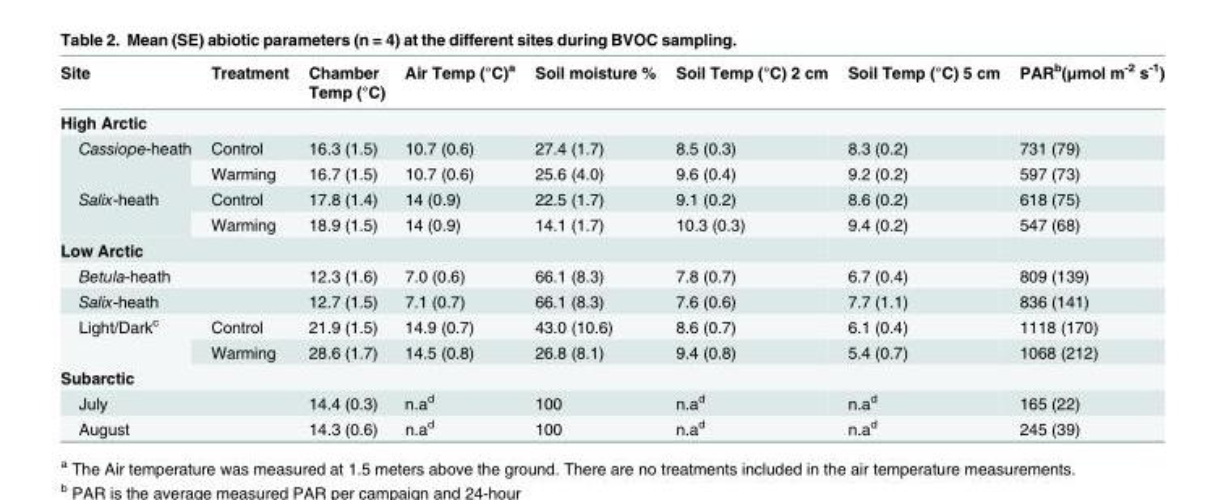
<table><thead><tr><td>Site</td><td>Treatment</td><td>Chamber Temp (°C)</td><td>Air Temp (°C)<sup>a</sup></td><td>Soil moisture %</td><td>Soil Temp (°C) 2 cm</td><td>Soil Temp (°C) 5 cm</td><td>PAR<sup>b</sup>(μmol m<sup>-2</sup> s<sup>-1</sup>)</td></tr></thead><tbody><tr><td colspan="8">High Arctic</td></tr><tr><td rowspan="2">Cassiope-heath</td><td>Control</td><td>16.3 (1.5)</td><td>10.7 (0.6)</td><td>27.4 (1.7)</td><td>8.5 (0.3)</td><td>8.3 (0.2)</td><td>731 (79)</td></tr><tr><td>Warming</td><td>16.7 (1.5)</td><td>10.7 (0.6)</td><td>25.6 (4.0)</td><td>9.6 (0.4)</td><td>9.2 (0.2)</td><td>597 (73)</td></tr><tr><td rowspan="2">Salix-heath</td><td>Control</td><td>17.8 (1.4)</td><td>14 (0.9)</td><td>22.5 (1.7)</td><td>9.1 (0.2)</td><td>8.6 (0.2)</td><td>618 (75)</td></tr><tr><td>Warming</td><td>18.9 (1.5)</td><td>14 (0.9)</td><td>14.1 (1.7)</td><td>10.3 (0.3)</td><td>9.4 (0.2)</td><td>547 (68)</td></tr><tr><td colspan="8">Low Arctic</td></tr><tr><td>Betula-heath</td><td></td><td>12.3 (1.6)</td><td>7.0 (0.6)</td><td>66.1 (8.3)</td><td>7.8 (0.7)</td><td>6.7 (0.4)</td><td>809 (139)</td></tr><tr><td>Salix-heath</td><td></td><td>12.7 (1.5)</td><td>7.1 (0.7)</td><td>66.1 (8.3)</td><td>7.6 (0.6)</td><td>7.7 (1.1)</td><td>836 (141)</td></tr><tr><td rowspan="2">Light/Dark<sup>c</sup></td><td>Control</td><td>21.9 (1.5)</td><td>14.9 (0.7)</td><td>43.0 (10.6)</td><td>8.6 (0.7)</td><td>6.1 (0.4)</td><td>1118 (170)</td></tr><tr><td>Warming</td><td>28.6 (1.7)</td><td>14.5 (0.8)</td><td>26.8 (8.1)</td><td>9.4 (0.8)</td><td>5.4 (0.7)</td><td>1068 (212)</td></tr><tr><td colspan="8">Subarctic</td></tr><tr><td>July</td><td></td><td>14.4 (0.3)</td><td>n.a<sup>d</sup></td><td>100</td><td>n.a<sup>d</sup></td><td>n.a<sup>d</sup></td><td>165 (22)</td></tr><tr><td>August</td><td></td><td>14.3 (0.6)</td><td>n.a<sup>d</sup></td><td>100</td><td>n.a<sup>d</sup></td><td>n.a<sup>d</sup></td><td>245 (39)</td></tr></tbody></table>